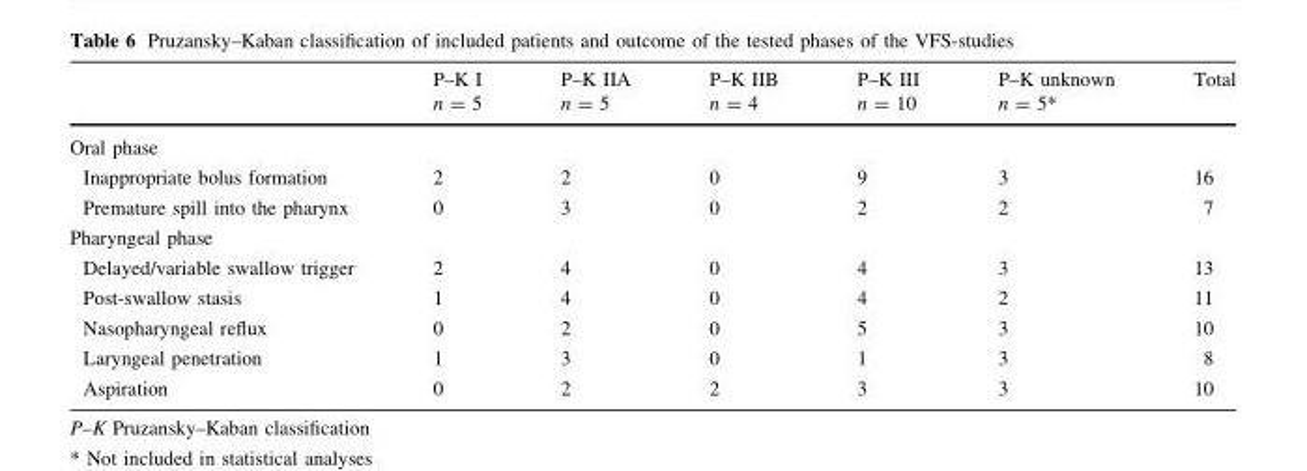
<table><thead><tr><td rowspan="2"></td><td rowspan="2">P–K I n = 5</td><td rowspan="2">P–K IIA n = 5</td><td rowspan="2">P–K IIB n = 4</td><td rowspan="2">P–K III n = 10</td><td rowspan="2">P–K unknown n = 5*</td><td rowspan="2">Total</td></tr><tr></tr></thead><tbody><tr><td colspan="7">Oral phase</td></tr><tr><td>Inappropriate bolus formation</td><td>2</td><td>2</td><td>0</td><td>9</td><td>3</td><td>16</td></tr><tr><td>Premature spill into the pharynx</td><td>0</td><td>3</td><td>0</td><td>2</td><td>2</td><td>7</td></tr><tr><td colspan="7">Pharyngeal phase</td></tr><tr><td>Delayed/variable swallow trigger</td><td>2</td><td>4</td><td>0</td><td>4</td><td>3</td><td>13</td></tr><tr><td>Post-swallow stasis</td><td>1</td><td>4</td><td>0</td><td>4</td><td>2</td><td>11</td></tr><tr><td>Nasopharyngeal reflux</td><td>0</td><td>2</td><td>0</td><td>5</td><td>3</td><td>10</td></tr><tr><td>Laryngeal penetration</td><td>1</td><td>3</td><td>0</td><td>1</td><td>3</td><td>8</td></tr><tr><td>Aspiration</td><td>0</td><td>2</td><td>2</td><td>3</td><td>3</td><td>10</td></tr></tbody></table>